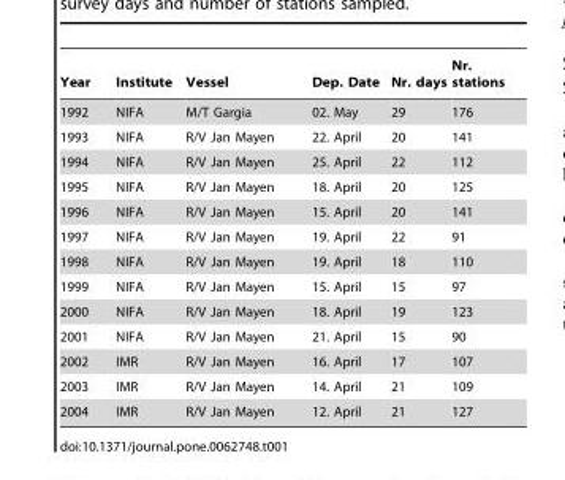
<table><thead><tr><td>Year</td><td>Institute</td><td>Vessel</td><td>Dep. Date</td><td>Nr. days</td><td>Nr. stations</td></tr></thead><tbody><tr><td>1992</td><td>NIFA</td><td>M/T Gargia</td><td>02. May</td><td>29</td><td>176</td></tr><tr><td>1993</td><td>NIFA</td><td>R/V Jan Mayen</td><td>22. April</td><td>20</td><td>141</td></tr><tr><td>1994</td><td>NIFA</td><td>R/V Jan Mayen</td><td>25. April</td><td>22</td><td>112</td></tr><tr><td>1995</td><td>NIFA</td><td>R/V Jan Mayen</td><td>18. April</td><td>20</td><td>125</td></tr><tr><td>1996</td><td>NIFA</td><td>R/V Jan Mayen</td><td>15. April</td><td>20</td><td>141</td></tr><tr><td>1997</td><td>NIFA</td><td>R/V Jan Mayen</td><td>19. April</td><td>22</td><td>91</td></tr><tr><td>1998</td><td>NIFA</td><td>R/V Jan Mayen</td><td>19. April</td><td>18</td><td>110</td></tr><tr><td>1999</td><td>NIFA</td><td>R/V Jan Mayen</td><td>15. April</td><td>15</td><td>97</td></tr><tr><td>2000</td><td>NIFA</td><td>R/V Jan Mayen</td><td>18. April</td><td>19</td><td>123</td></tr><tr><td>2001</td><td>NIFA</td><td>R/V Jan Mayen</td><td>21. April</td><td>15</td><td>90</td></tr><tr><td>2002</td><td>IMR</td><td>R/V Jan Mayen</td><td>16. April</td><td>17</td><td>107</td></tr><tr><td>2003</td><td>IMR</td><td>R/V Jan Mayen</td><td>14. April</td><td>21</td><td>109</td></tr><tr><td>2004</td><td>IMR</td><td>R/V Jan Mayen</td><td>12. April</td><td>21</td><td>127</td></tr></tbody></table>